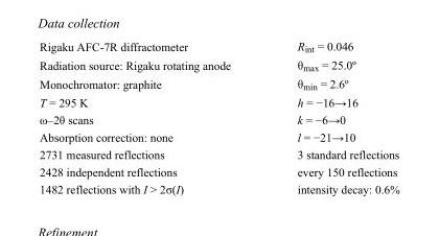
<table><tbody><tr><td>Rigaku AFC-7R diffractometer</td><td>R<sub>int</sub> = 0.046</td></tr><tr><td>Radiation source: Rigaku rotating anode</td><td>θ<sub>max</sub> = 25.0º</td></tr><tr><td>Monochromator: graphite</td><td>θ<sub>min</sub> = 2.6º</td></tr><tr><td>T = 295 K</td><td>h = −16→16</td></tr><tr><td>ω–2θ scans</td><td>k = −6→0</td></tr><tr><td>Absorption correction: none</td><td>l = −21→10</td></tr><tr><td>2731 measured reflections</td><td>3 standard reflections</td></tr><tr><td>2428 independent reflections</td><td>every 150 reflections</td></tr><tr><td>1482 reflections with I &gt; 2σ(I)</td><td>intensity decay: 0.6%</td></tr></tbody></table>